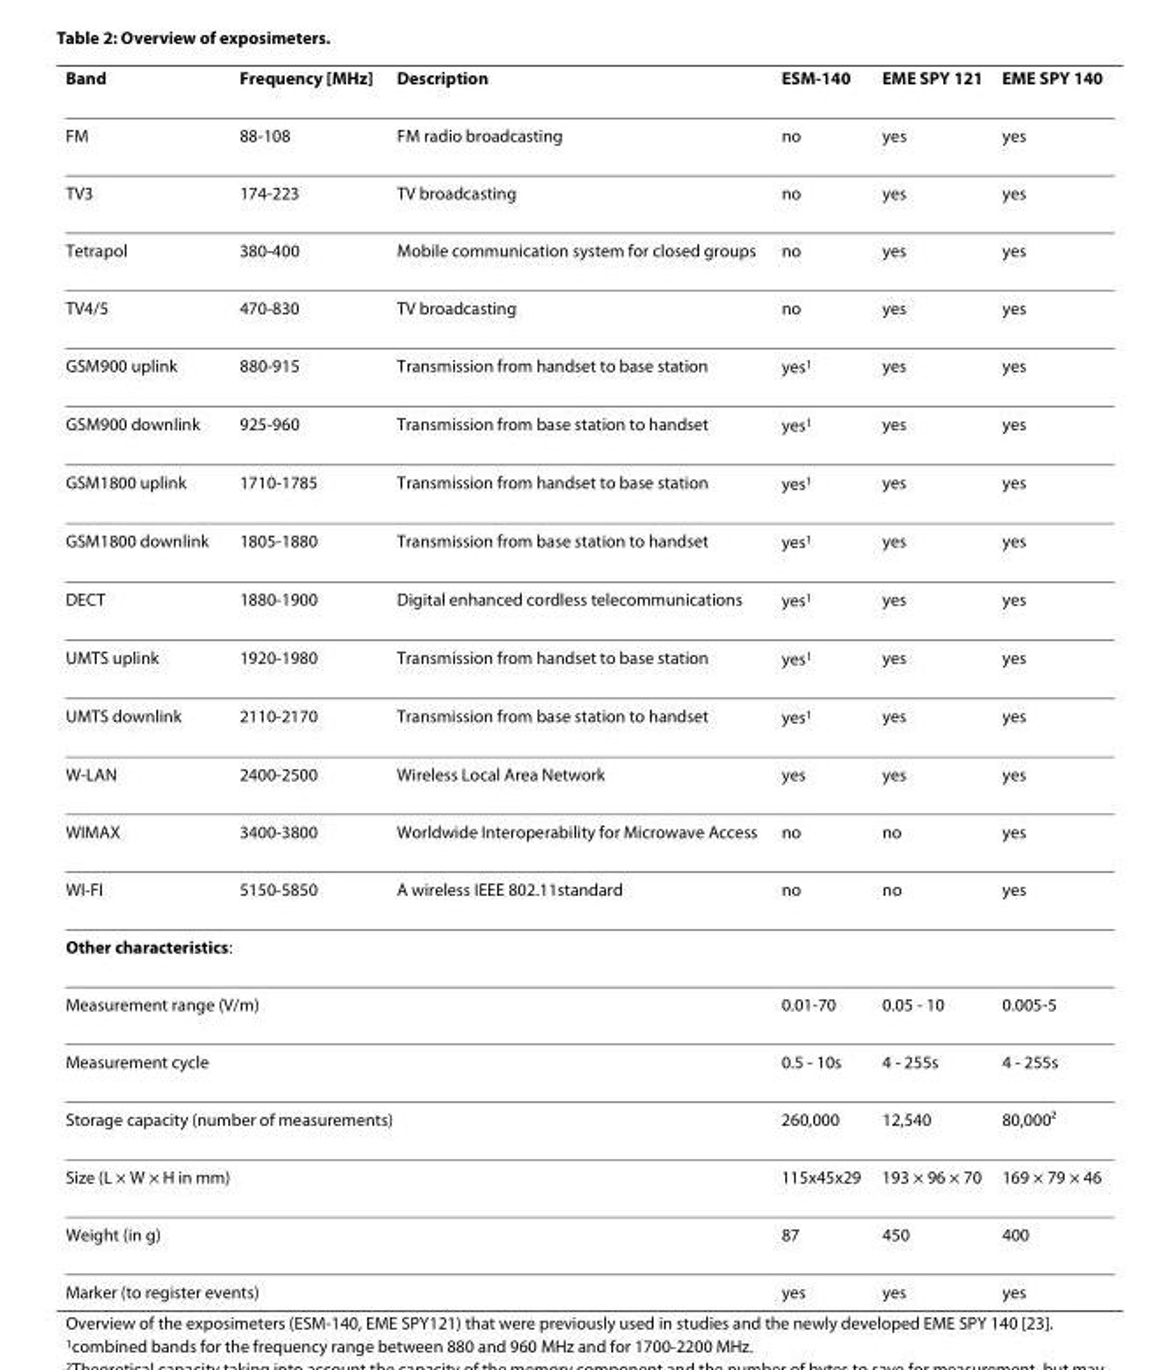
<table><thead><tr><td>Band</td><td>Frequency [MHz]</td><td>Description</td><td>ESM-140</td><td>EME SPY 121</td><td>EME SPY 140</td></tr></thead><tbody><tr><td>FM</td><td>88-108</td><td>FM radio broadcasting</td><td>no</td><td>yes</td><td>yes</td></tr><tr><td>TV3</td><td>174-223</td><td>TV broadcasting</td><td>no</td><td>yes</td><td>yes</td></tr><tr><td>Tetrapol</td><td>380-400</td><td>Mobile communication system for closed groups</td><td>no</td><td>yes</td><td>yes</td></tr><tr><td>TV4/5</td><td>470-830</td><td>TV broadcasting</td><td>no</td><td>yes</td><td>yes</td></tr><tr><td>GSM900 uplink</td><td>880-915</td><td>Transmission from handset to base station</td><td>yes<sup>1</sup></td><td>yes</td><td>yes</td></tr><tr><td>GSM900 downlink</td><td>925-960</td><td>Transmission from base station to handset</td><td>yes<sup>1</sup></td><td>yes</td><td>yes</td></tr><tr><td>GSM1800 uplink</td><td>1710-1785</td><td>Transmission from handset to base station</td><td>yes<sup>1</sup></td><td>yes</td><td>yes</td></tr><tr><td>GSM1800 downlink</td><td>1805-1880</td><td>Transmission from base station to handset</td><td>yes<sup>1</sup></td><td>yes</td><td>yes</td></tr><tr><td>DECT</td><td>1880-1900</td><td>Digital enhanced cordless telecommunications</td><td>yes<sup>1</sup></td><td>yes</td><td>yes</td></tr><tr><td>UMTS uplink</td><td>1920-1980</td><td>Transmission from handset to base station</td><td>yes<sup>1</sup></td><td>yes</td><td>yes</td></tr><tr><td>UMTS downlink</td><td>2110-2170</td><td>Transmission from base station to handset</td><td>yes<sup>1</sup></td><td>yes</td><td>yes</td></tr><tr><td>W-LAN</td><td>2400-2500</td><td>Wireless Local Area Network</td><td>yes</td><td>yes</td><td>yes</td></tr><tr><td>WIMAX</td><td>3400-3800</td><td>Worldwide Interoperability for Microwave Access</td><td>no</td><td>no</td><td>yes</td></tr><tr><td>WI-FI</td><td>5150-5850</td><td>A wireless IEEE 802.11standard</td><td>no</td><td>no</td><td>yes</td></tr><tr><td colspan="6">Other characteristics:</td></tr><tr><td colspan="3">Measurement range (V/m)</td><td>0.01-70</td><td>0.05 - 10</td><td>0.005-5</td></tr><tr><td colspan="3">Measurement cycle</td><td>0.5 - 10s</td><td>4 - 255s</td><td>4 - 255s</td></tr><tr><td colspan="3">Storage capacity (number of measurements)</td><td>260,000</td><td>12,540</td><td>80,000<sup>2</sup></td></tr><tr><td colspan="3">Size (L × W × H in mm)</td><td>115x45x29</td><td>193 × 96 × 70</td><td>169 × 79 × 46</td></tr><tr><td colspan="3">Weight (in g)</td><td>87</td><td>450</td><td>400</td></tr><tr><td colspan="3">Marker (to register events)</td><td>yes</td><td>yes</td><td>yes</td></tr></tbody></table>